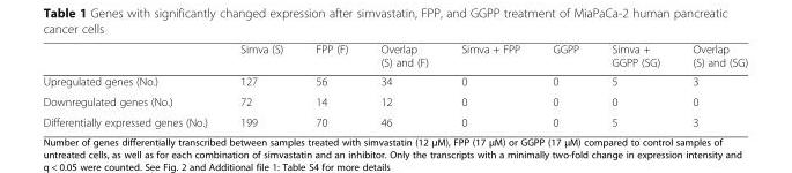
<table><thead><tr><td></td><td>Simva (S)</td><td>FPP (F)</td><td>Overlap (S) and (F)</td><td>Simva + FPP</td><td>GGPP</td><td>Simva + GGPP (SG)</td><td>Overlap (S) and (SG)</td></tr></thead><tbody><tr><td>Upregulated genes (No.)</td><td>127</td><td>56</td><td>34</td><td>0</td><td>0</td><td>5</td><td>3</td></tr><tr><td>Downregulated genes (No.)</td><td>72</td><td>14</td><td>12</td><td>0</td><td>0</td><td>0</td><td>0</td></tr><tr><td>Differentially expressed genes (No.)</td><td>199</td><td>70</td><td>46</td><td>0</td><td>0</td><td>5</td><td>3</td></tr></tbody></table>